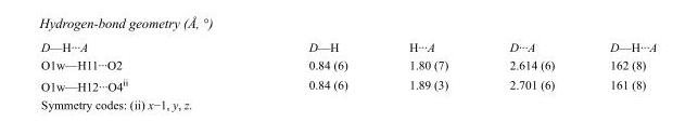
<table><tbody><tr><td>D—H···A</td><td>D—H</td><td>H···A</td><td>D···A</td><td>D—H···A</td></tr><tr><td>O1w—H11···O2</td><td>0.84 (6)</td><td>1.80 (7)</td><td>2.614 (6)</td><td>162 (8)</td></tr><tr><td>O1w—H12···O4<sup>ii</sup></td><td>0.84 (6)</td><td>1.89 (3)</td><td>2.701 (6)</td><td>161 (8)</td></tr></tbody></table>